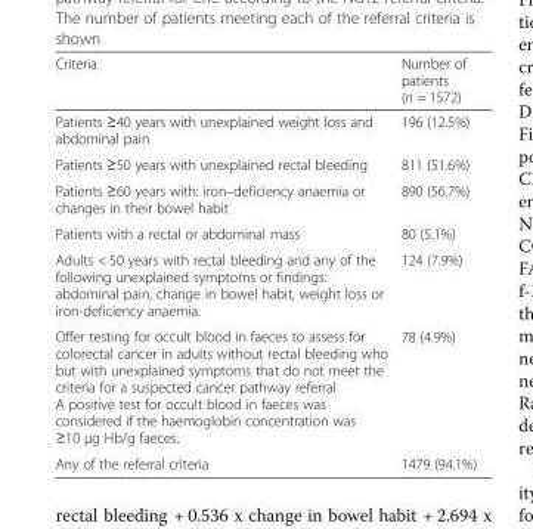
<table><thead><tr><td>Criteria</td><td>Number of patients (n = 1572)</td></tr></thead><tbody><tr><td>Patients ≥40 years with unexplained weight loss and abdominal pain</td><td>196 (12.5%)</td></tr><tr><td>Patients ≥50 years with unexplained rectal bleeding</td><td>811 (51.6%)</td></tr><tr><td>Patients ≥60 years with: iron–deficiency anaemia or changes in their bowel habit</td><td>890 (56.7%)</td></tr><tr><td>Patients with a rectal or abdominal mass</td><td>80 (5.1%)</td></tr><tr><td>Adults &lt; 50 years with rectal bleeding and any of the following unexplained symptoms or findings: abdominal pain, change in bowel habit, weight loss or iron-deficiency anaemia.</td><td>124 (7.9%)</td></tr><tr><td>Offer testing for occult blood in faeces to assess for colorectal cancer in adults without rectal bleeding who but with unexplained symptoms that do not meet the criteria for a suspected cancer pathway referral A positive test for occult blood in faeces was considered if the haemoglobin concentration was ≥10 μg Hb/g faeces.</td><td>78 (4.9%)</td></tr><tr><td>Any of the referral criteria</td><td>1479 (94.1%)</td></tr></tbody></table>